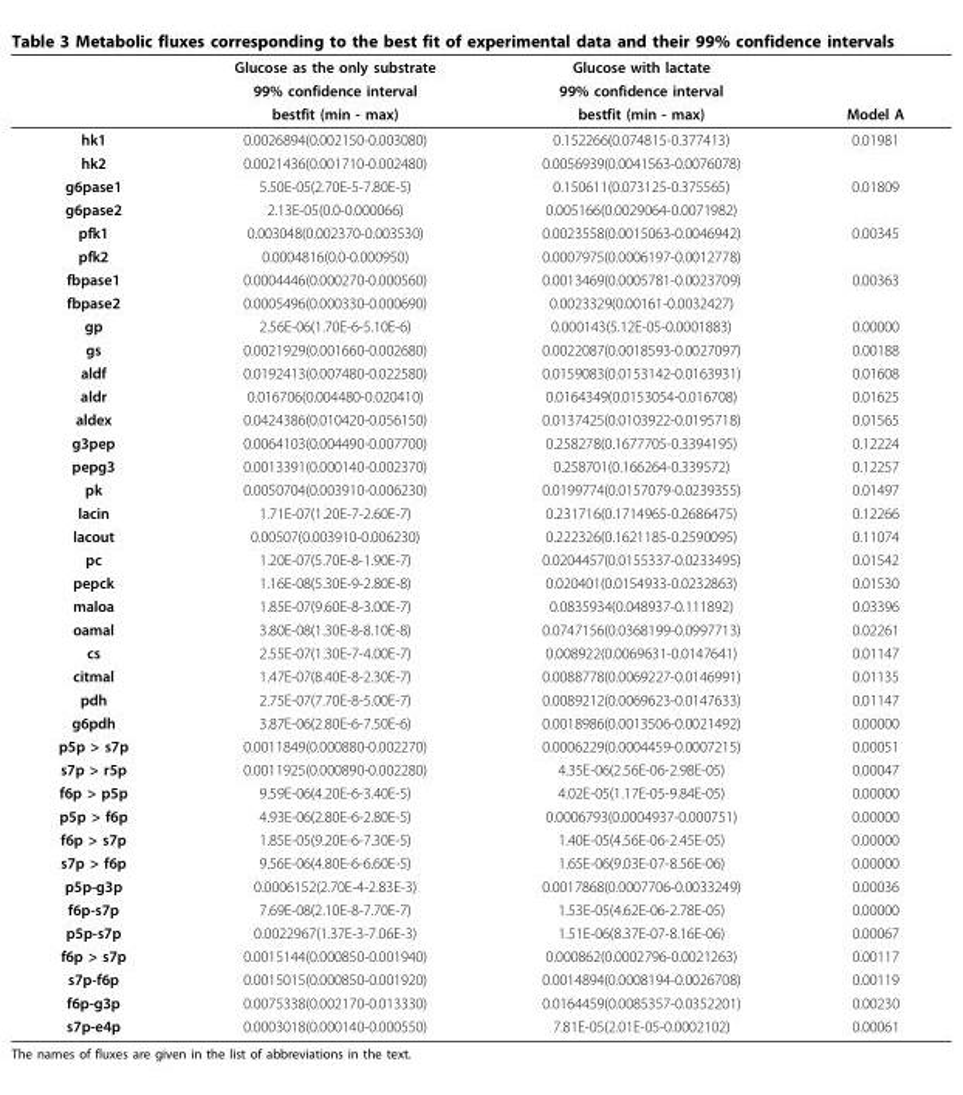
<table><thead><tr><td rowspan="3"></td><td rowspan="3">Glucose as the only substrate 99% confidence interval bestfit (min - max)</td><td rowspan="3">Glucose with lactate 99% confidence interval bestfit (min - max)</td><td rowspan="3">Model A</td></tr><tr></tr><tr></tr></thead><tbody><tr><td>hk1</td><td>0.0026894(0.002150-0.003080)</td><td>0.152266(0.074815-0.377413)</td><td>0.01981</td></tr><tr><td>hk2</td><td>0.0021436(0.001710-0.002480)</td><td>0.0056939(0.0041563-0.0076078)</td><td></td></tr><tr><td>g6pase1</td><td>5.50E-05(2.70E-5-7.80E-5)</td><td>0.150611(0.073125-0.375565)</td><td>0.01809</td></tr><tr><td>g6pase2</td><td>2.13E-05(0.0-0.000066)</td><td>0.005166(0.0029064-0.0071982)</td><td></td></tr><tr><td>pfk1</td><td>0.003048(0.002370-0.003530)</td><td>0.0023558(0.0015063-0.0046942)</td><td>0.00345</td></tr><tr><td>pfk2</td><td>0.0004816(0.0-0.000950)</td><td>0.0007975(0.0006197-0.0012778)</td><td></td></tr><tr><td>fbpase1</td><td>0.0004446(0.000270-0.000560)</td><td>0.0013469(0.0005781-0.0023709)</td><td>0.00363</td></tr><tr><td>fbpase2</td><td>0.0005496(0.000330-0.000690)</td><td>0.0023329(0.00161-0.0032427)</td><td></td></tr><tr><td>gp</td><td>2.56E-06(1.70E-6-5.10E-6)</td><td>0.000143(5.12E-05-0.0001883)</td><td>0.00000</td></tr><tr><td>gs</td><td>0.0021929(0.001660-0.002680)</td><td>0.0022087(0.0018593-0.0027097)</td><td>0.00188</td></tr><tr><td>aldf</td><td>0.0192413(0.007480-0.022580)</td><td>0.0159083(0.0153142-0.0163931)</td><td>0.01608</td></tr><tr><td>aldr</td><td>0.016706(0.004480-0.020410)</td><td>0.0164349(0.0153054-0.016708)</td><td>0.01625</td></tr><tr><td>aldex</td><td>0.0424386(0.010420-0.056150)</td><td>0.0137425(0.0103922-0.0195718)</td><td>0.01565</td></tr><tr><td>g3pep</td><td>0.0064103(0.004490-0.007700)</td><td>0.258278(0.1677705-0.3394195)</td><td>0.12224</td></tr><tr><td>pepg3</td><td>0.0013391(0.000140-0.002370)</td><td>0.258701(0.166264-0.339572)</td><td>0.12257</td></tr><tr><td>pk</td><td>0.0050704(0.003910-0.006230)</td><td>0.0199774(0.0157079-0.0239355)</td><td>0.01497</td></tr><tr><td>lacin</td><td>1.71E-07(1.20E-7-2.60E-7)</td><td>0.231716(0.1714965-0.2686475)</td><td>0.12266</td></tr><tr><td>lacout</td><td>0.00507(0.003910-0.006230)</td><td>0.222326(0.1621185-0.2590095)</td><td>0.11074</td></tr><tr><td>pc</td><td>1.20E-07(5.70E-8-1.90E-7)</td><td>0.0204457(0.0155337-0.0233495)</td><td>0.01542</td></tr><tr><td>pepck</td><td>1.16E-08(5.30E-9-2.80E-8)</td><td>0.020401(0.0154933-0.0232863)</td><td>0.01530</td></tr><tr><td>maloa</td><td>1.85E-07(9.60E-8-3.00E-7)</td><td>0.0835934(0.048937-0.111892)</td><td>0.03396</td></tr><tr><td>oamal</td><td>3.80E-08(1.30E-8-8.10E-8)</td><td>0.0747156(0.0368199-0.0997713)</td><td>0.02261</td></tr><tr><td>cs</td><td>2.55E-07(1.30E-7-4.00E-7)</td><td>0.008922(0.0069631-0.0147641)</td><td>0.01147</td></tr><tr><td>citmal</td><td>1.47E-07(8.40E-8-2.30E-7)</td><td>0.0088778(0.0069227-0.0146991)</td><td>0.01135</td></tr><tr><td>pdh</td><td>2.75E-07(7.70E-8-5.00E-7)</td><td>0.0089212(0.0069623-0.0147633)</td><td>0.01147</td></tr><tr><td>g6pdh</td><td>3.87E-06(2.80E-6-7.50E-6)</td><td>0.0018986(0.0013506-0.0021492)</td><td>0.00000</td></tr><tr><td>p5p &gt; s7p</td><td>0.0011849(0.000880-0.002270)</td><td>0.0006229(0.0004459-0.0007215)</td><td>0.00051</td></tr><tr><td>s7p &gt; r5p</td><td>0.0011925(0.000890-0.002280)</td><td>4.35E-06(2.56E-06-2.98E-05)</td><td>0.00047</td></tr><tr><td>f6p &gt; p5p</td><td>9.59E-06(4.20E-6-3.40E-5)</td><td>4.02E-05(1.17E-05-9.84E-05)</td><td>0.00000</td></tr><tr><td>p5p &gt; f6p</td><td>4.93E-06(2.80E-6-2.80E-5)</td><td>0.0006793(0.0004937-0.000751)</td><td>0.00000</td></tr><tr><td>f6p &gt; s7p</td><td>1.85E-05(9.20E-6-7.30E-5)</td><td>1.40E-05(4.56E-06-2.45E-05)</td><td>0.00000</td></tr><tr><td>s7p &gt; f6p</td><td>9.56E-06(4.80E-6-6.60E-5)</td><td>1.65E-06(9.03E-07-8.56E-06)</td><td>0.00000</td></tr><tr><td>p5p-g3p</td><td>0.0006152(2.70E-4-2.83E-3)</td><td>0.0017868(0.0007706-0.0033249)</td><td>0.00036</td></tr><tr><td>f6p-s7p</td><td>7.69E-08(2.10E-8-7.70E-7)</td><td>1.53E-05(4.62E-06-2.78E-05)</td><td>0.00000</td></tr><tr><td>p5p-s7p</td><td>0.0022967(1.37E-3-7.06E-3)</td><td>1.51E-06(8.37E-07-8.16E-06)</td><td>0.00067</td></tr><tr><td>f6p &gt; s7p</td><td>0.0015144(0.000850-0.001940)</td><td>0.000862(0.0002796-0.0021263)</td><td>0.00117</td></tr><tr><td>s7p-f6p</td><td>0.0015015(0.000850-0.001920)</td><td>0.0014894(0.0008194-0.0026708)</td><td>0.00119</td></tr><tr><td>f6p-g3p</td><td>0.0075338(0.002170-0.013330)</td><td>0.0164459(0.0085357-0.0352201)</td><td>0.00230</td></tr><tr><td>s7p-e4p</td><td>0.0003018(0.000140-0.000550)</td><td>7.81E-05(2.01E-05-0.0002102)</td><td>0.00061</td></tr></tbody></table>